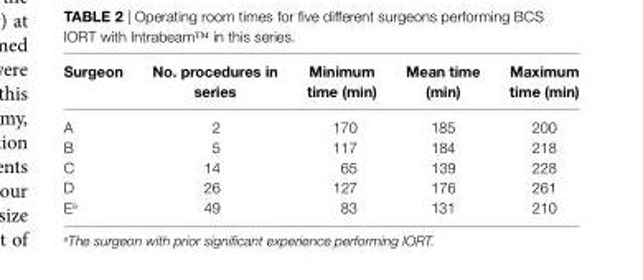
<table><thead><tr><td>surgeon</td><td>no. procedures in series</td><td>Minimum time (min)</td><td>Mean time (min)</td><td>Maximum time (min)</td></tr></thead><tbody><tr><td>A</td><td>2</td><td>170</td><td>185</td><td>200</td></tr><tr><td>B</td><td>5</td><td>117</td><td>184</td><td>218</td></tr><tr><td>C</td><td>14</td><td>65</td><td>139</td><td>228</td></tr><tr><td>D</td><td>26</td><td>127</td><td>176</td><td>261</td></tr><tr><td>E<sup>a</sup></td><td>49</td><td>83</td><td>131</td><td>210</td></tr></tbody></table>